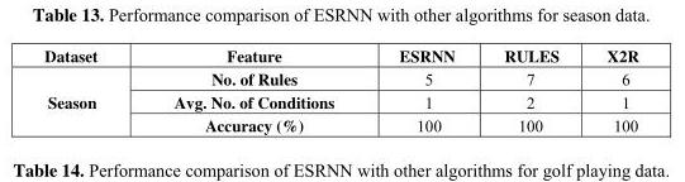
<table><thead><tr><td>Dataset</td><td>Feature</td><td>ESRNN</td><td>RULES</td><td>X2R</td></tr></thead><tbody><tr><td rowspan="3">Season</td><td>No. of Rules</td><td>5</td><td>7</td><td>6</td></tr><tr><td>Avg. No. of Conditions</td><td>1</td><td>2</td><td>1</td></tr><tr><td>Accuracy (%)</td><td>100</td><td>100</td><td>100</td></tr></tbody></table>